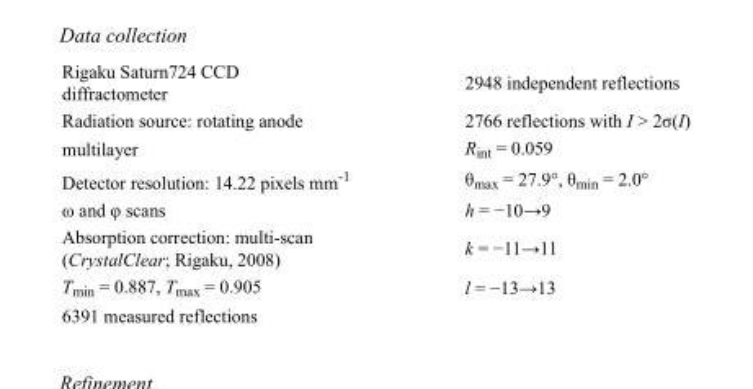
<table><tbody><tr><td>Rigaku Saturn724 CCD diffractometer</td><td>2948 independent reflections</td></tr><tr><td>Radiation source: rotating anode</td><td>2766 reflections with I &gt; 2σ(I)</td></tr><tr><td>multilayer</td><td>R<sub>int</sub> = 0.059</td></tr><tr><td>Detector resolution: 14.22 pixels mm<sup>-1</sup></td><td>θ<sub>max</sub> = 27.9°, θ<sub>min</sub> = 2.0°</td></tr><tr><td>ω and φ scans</td><td>h = −10→9</td></tr><tr><td>Absorption correction: multi-scan (CrystalClear; Rigaku, 2008)</td><td>k = −11→11</td></tr><tr><td>T<sub>min</sub> = 0.887, T<sub>max</sub> = 0.905</td><td>l = −13→13</td></tr><tr><td>6391 measured reflections</td><td></td></tr></tbody></table>